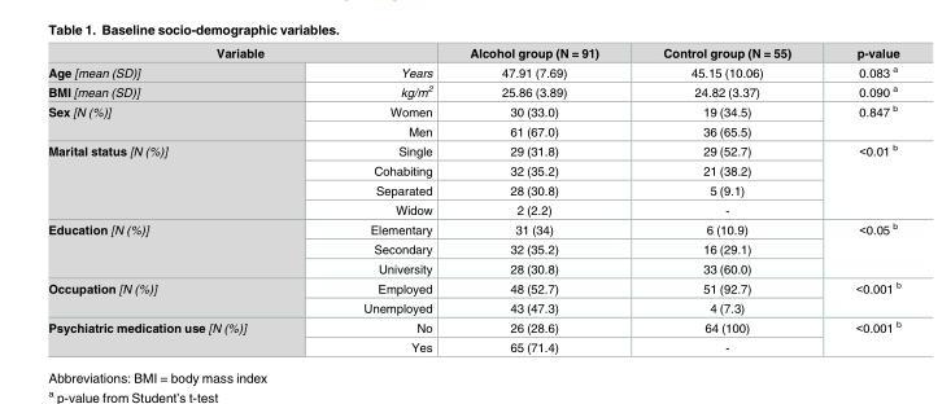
<table><thead><tr><td colspan="2">Variable</td><td rowspan="2">Alcohol group (N = 91) 47.91 (7.69)</td><td rowspan="2">Control group (N = 55) 45.15 (10.06)</td><td rowspan="2">p-value 0.083 <sup>a</sup></td></tr><tr><td>Age [mean (SD)]</td><td>Years</td></tr></thead><tbody><tr><td>BMI [mean (SD)]</td><td>kg/m<sup>2</sup></td><td>25.86 (3.89)</td><td>24.82 (3.37)</td><td>0.090 <sup>a</sup></td></tr><tr><td rowspan="2">Sex [N (%)]</td><td>Women</td><td>30 (33.0)</td><td>19 (34.5)</td><td rowspan="2">0.847 <sup>b</sup></td></tr><tr><td>Men</td><td>61 (67.0)</td><td>36 (65.5)</td></tr><tr><td rowspan="4">Marital status [N (%)]</td><td>Single</td><td>29 (31.8)</td><td>29 (52.7)</td><td rowspan="4">&lt;0.01 <sup>b</sup></td></tr><tr><td>Cohabiting</td><td>32 (35.2)</td><td>21 (38.2)</td></tr><tr><td>Separated</td><td>28 (30.8)</td><td>5 (9.1)</td></tr><tr><td>Widow</td><td>2 (2.2)</td><td>-</td></tr><tr><td rowspan="3">Education [N (%)]</td><td>Elementary</td><td>31 (34)</td><td>6 (10.9)</td><td rowspan="3">&lt;0.05 <sup>b</sup></td></tr><tr><td>Secondary</td><td>32 (35.2)</td><td>16 (29.1)</td></tr><tr><td>University</td><td>28 (30.8)</td><td>33 (60.0)</td></tr><tr><td rowspan="2">Occupation [N (%)]</td><td>Employed</td><td>48 (52.7)</td><td>51 (92.7)</td><td rowspan="2">&lt;0.001 <sup>b</sup></td></tr><tr><td>Unemployed</td><td>43 (47.3)</td><td>4 (7.3)</td></tr><tr><td rowspan="2">Psychiatric medication use [N (%)]</td><td>No</td><td>26 (28.6)</td><td>64 (100)</td><td rowspan="2">&lt;0.001 <sup>b</sup></td></tr><tr><td>Yes</td><td>65 (71.4)</td><td>-</td></tr></tbody></table>